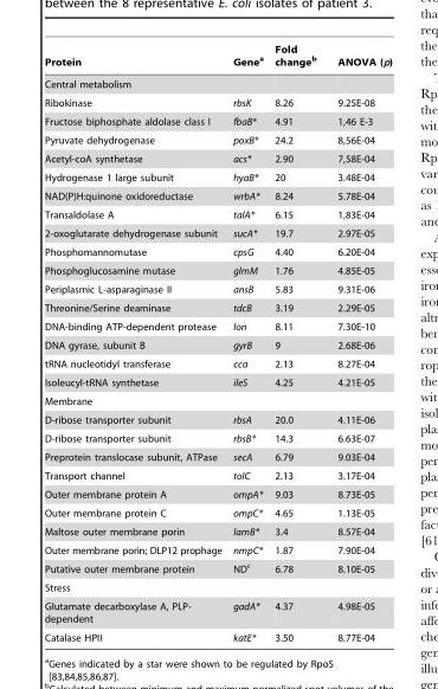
<table><thead><tr><td>Protein</td><td>Gene<sup>a</sup></td><td>Fold change<sup>b</sup></td><td>ANOVA (p)</td></tr></thead><tbody><tr><td colspan="4">Central metabolism</td></tr><tr><td>Ribokinase</td><td>rbsK</td><td>8.26</td><td>9.25E-08</td></tr><tr><td>Fructose biphosphate aldolase class I</td><td>fbaB*</td><td>4.91</td><td>1,46 E-3</td></tr><tr><td>Pyruvate dehydrogenase</td><td>poxB*</td><td>24.2</td><td>8,56E-04</td></tr><tr><td>Acetyl-coA synthetase</td><td>acs*</td><td>2.90</td><td>7,58E-04</td></tr><tr><td>Hydrogenase 1 large subunit</td><td>hyaB*</td><td>20</td><td>3.48E-04</td></tr><tr><td>NAD(P)H:quinone oxidoreductase</td><td>wrbA*</td><td>8.24</td><td>5.78E-04</td></tr><tr><td>Transaldolase A</td><td>talA*</td><td>6.15</td><td>1,83E-04</td></tr><tr><td>2-oxoglutarate dehydrogenase subunit</td><td>sucA*</td><td>19.7</td><td>2.97E-05</td></tr><tr><td>Phosphomannomutase</td><td>cpsG</td><td>4.40</td><td>6.20E-04</td></tr><tr><td>Phosphoglucosamine mutase</td><td>glmM</td><td>1.76</td><td>4.85E-05</td></tr><tr><td>Periplasmic L-asparaginase II</td><td>ansB</td><td>5.83</td><td>9.31E-06</td></tr><tr><td>Threonine/Serine deaminase</td><td>tdcB</td><td>3.19</td><td>2.29E-05</td></tr><tr><td>DNA-binding ATP-dependent protease</td><td>lon</td><td>8.11</td><td>7.30E-10</td></tr><tr><td>DNA gyrase, subunit B</td><td>gyrB</td><td>9</td><td>2.68E-06</td></tr><tr><td>tRNA nucleotidyl transferase</td><td>cca</td><td>2.13</td><td>8.27E-04</td></tr><tr><td>Isoleucyl-tRNA synthetase</td><td>ileS</td><td>4.25</td><td>4.21E-05</td></tr><tr><td colspan="4">Membrane</td></tr><tr><td>D-ribose transporter subunit</td><td>rbsA</td><td>20.0</td><td>4.11E-06</td></tr><tr><td>D-ribose transporter subunit</td><td>rbsB*</td><td>14.3</td><td>6.63E-07</td></tr><tr><td>Preprotein translocase subunit, ATPase</td><td>secA</td><td>6.79</td><td>9.03E-04</td></tr><tr><td>Transport channel</td><td>tolC</td><td>2.13</td><td>3.17E-04</td></tr><tr><td>Outer membrane protein A</td><td>ompA*</td><td>9.03</td><td>8.73E-05</td></tr><tr><td>Outer membrane protein C</td><td>ompC*</td><td>4.65</td><td>1.13E-05</td></tr><tr><td>Maltose outer membrane porin</td><td>lamB*</td><td>3.4</td><td>8.57E-04</td></tr><tr><td>Outer membrane porin; DLP12 prophage</td><td>nmpC*</td><td>1.87</td><td>7.90E-04</td></tr><tr><td>Putative outer membrane protein</td><td>ND<sup>c</sup></td><td>6.78</td><td>8.10E-05</td></tr><tr><td colspan="4">Stress</td></tr><tr><td>Glutamate decarboxylase A, PLP- dependent</td><td>gadA*</td><td>4.37</td><td>4.98E-05</td></tr><tr><td>Catalase HPII</td><td>katE*</td><td>3.50</td><td>8.77E-04</td></tr></tbody></table>